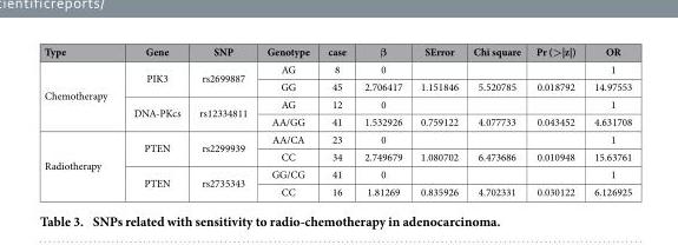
<table><thead><tr><td>Type</td><td>Gene</td><td>SNP</td><td>Genotype</td><td>case</td><td>β</td><td>SError</td><td>Chi square</td><td>Pr (&gt;|z|)</td><td>OR</td></tr></thead><tbody><tr><td rowspan="4">Chemotherapy</td><td rowspan="2">PIK3</td><td rowspan="2">rs2699887</td><td>AG</td><td>8</td><td>0</td><td></td><td></td><td></td><td>1</td></tr><tr><td>GG</td><td>45</td><td>2.706417</td><td>1.151846</td><td>5.520785</td><td>0.018792</td><td>14.97553</td></tr><tr><td rowspan="2">DNA-PKcs</td><td rowspan="2">rs12334811</td><td>AG</td><td>12</td><td>0</td><td></td><td></td><td></td><td>1</td></tr><tr><td>AA/GG</td><td>41</td><td>1.532926</td><td>0.759122</td><td>4.077733</td><td>0.043452</td><td>4.631708</td></tr><tr><td rowspan="4">Radiotherapy</td><td rowspan="2">PTEN</td><td rowspan="2">rs2299939</td><td>AA/CA</td><td>23</td><td>0</td><td></td><td></td><td></td><td>1</td></tr><tr><td>CC</td><td>34</td><td>2.749679</td><td>1.080702</td><td>6.473686</td><td>0.010948</td><td>15.63761</td></tr><tr><td rowspan="2">PTEN</td><td rowspan="2">rs2735343</td><td>GG/CG</td><td>41</td><td>0</td><td></td><td></td><td></td><td>1</td></tr><tr><td>CC</td><td>16</td><td>1.81269</td><td>0.835926</td><td>4.702331</td><td>0.030122</td><td>6.126925</td></tr></tbody></table>